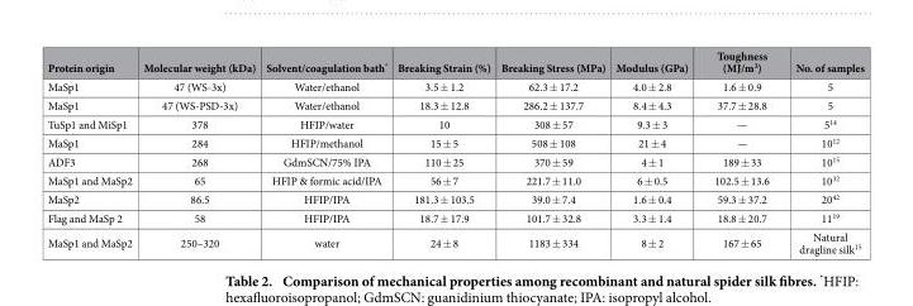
<table><thead><tr><td>Protein origin</td><td>Molecular weight (kDa)</td><td>Solvent/coagulation bath*</td><td>Breaking Strain (%)</td><td>Breaking Stress (MPa)</td><td>Modulus (GPa)</td><td>Toughness (MJ/m<sup>3</sup>)</td><td>No. of samples</td></tr></thead><tbody><tr><td>MaSp1</td><td>47 (WS-3x)</td><td>Water/ethanol</td><td>3.5 ± 1.2</td><td>62.3 ± 17.2</td><td>4.0 ± 2.8</td><td>1.6 ± 0.9</td><td>5</td></tr><tr><td>MaSp1</td><td>47 (WS-PSD-3x)</td><td>Water/ethanol</td><td>18.3 ± 12.8</td><td>286.2 ± 137.7</td><td>8.4 ± 4.3</td><td>37.7 ± 28.8</td><td>5</td></tr><tr><td>TuSp1 and MiSp1</td><td>378</td><td>HFIP/water</td><td>10</td><td>308 ± 57</td><td>9.3 ± 3</td><td>—</td><td>5<sup>14</sup></td></tr><tr><td>MaSp1</td><td>284</td><td>HFIP/methanol</td><td>15 ± 5</td><td>508 ± 108</td><td>21 ± 4</td><td>—</td><td>10<sup>12</sup></td></tr><tr><td>ADF3</td><td>268</td><td>GdmSCN/75% IPA</td><td>110 ± 25</td><td>370 ± 59</td><td>4 ± 1</td><td>189 ± 33</td><td>10<sup>15</sup></td></tr><tr><td>MaSp1 and MaSp2</td><td>65</td><td>HFIP &amp; formic acid/IPA</td><td>56 ± 7</td><td>221.7 ± 11.0</td><td>6 ± 0.5</td><td>102.5 ± 13.6</td><td>10<sup>32</sup></td></tr><tr><td>MaSp2</td><td>86.5</td><td>HFIP/IPA</td><td>181.3 ± 103.5</td><td>39.0 ± 7.4</td><td>1.6 ± 0.4</td><td>59.3 ± 37.2</td><td>20<sup>42</sup></td></tr><tr><td>Flag and MaSp 2</td><td>58</td><td>HFIP/IPA</td><td>18.7 ± 17.9</td><td>101.7 ± 32.8</td><td>3.3 ± 1.4</td><td>18.8 ± 20.7</td><td>11<sup>19</sup></td></tr><tr><td>MaSp1 and MaSp2</td><td>250–320</td><td>water</td><td>24 ± 8</td><td>1183 ± 334</td><td>8 ± 2</td><td>167 ± 65</td><td>Natural dragline silk<sup>15</sup></td></tr></tbody></table>